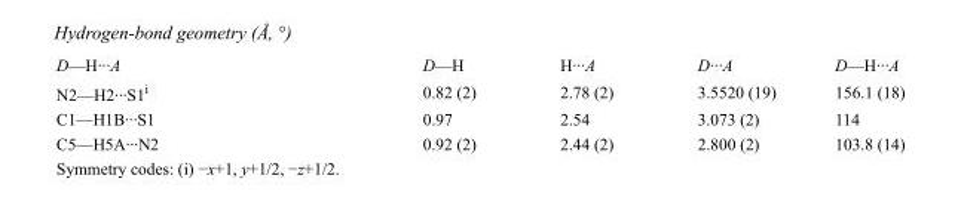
<table><tbody><tr><td>D—H···A</td><td>D—H</td><td>H···A</td><td>D···A</td><td>D—H···A</td></tr><tr><td>N2—H2···S1<sup>i</sup></td><td>0.82 (2)</td><td>2.78 (2)</td><td>3.5520 (19)</td><td>156.1 (18)</td></tr><tr><td>C1—H1B···S1</td><td>0.97</td><td>2.54</td><td>3.073 (2)</td><td>114</td></tr><tr><td>C5—H5A···N2</td><td>0.92 (2)</td><td>2.44 (2)</td><td>2.800 (2)</td><td>103.8 (14)</td></tr></tbody></table>